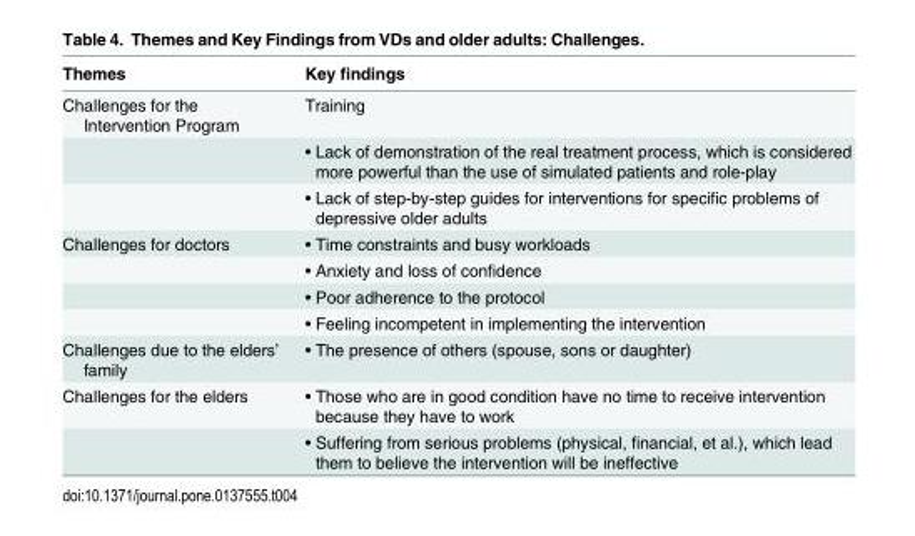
<table><thead><tr><td>Themes</td><td>Key findings</td></tr></thead><tbody><tr><td rowspan="3">Challenges for the Intervention Program</td><td>Training</td></tr><tr><td>• Lack of demonstration of the real treatment process, which is considered more powerful than the use of simulated patients and role-play</td></tr><tr><td>• Lack of step-by-step guides for interventions for specific problems of depressive older adults</td></tr><tr><td rowspan="4">Challenges for doctors</td><td>• Time constraints and busy workloads</td></tr><tr><td>• Anxiety and loss of confidence</td></tr><tr><td>• Poor adherence to the protocol</td></tr><tr><td>• Feeling incompetent in implementing the intervention</td></tr><tr><td>Challenges due to the elders’ family</td><td>• The presence of others (spouse, sons or daughter)</td></tr><tr><td rowspan="2">Challenges for the elders</td><td>• Those who are in good condition have no time to receive intervention because they have to work</td></tr><tr><td>• Suffering from serious problems (physical, financial, et al.), which lead them to believe the intervention will be ineffective</td></tr></tbody></table>